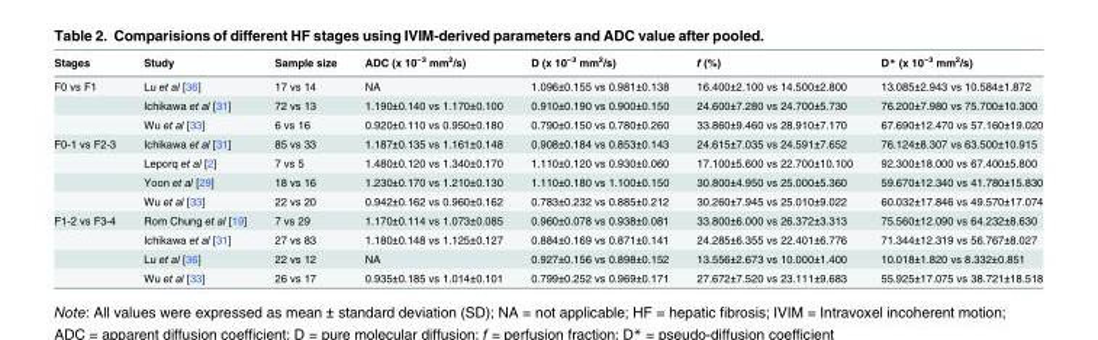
<table><thead><tr><td>Stages</td><td>Study</td><td>Sample size</td><td>ADC (x 10<sup>−3</sup> mm<sup>2</sup>/s)</td><td>D (x 10<sup>−3</sup> mm<sup>2</sup>/s)</td><td>f (%)</td><td>D* (x 10<sup>−3</sup> mm<sup>2</sup>/s)</td></tr></thead><tbody><tr><td rowspan="3">F0 vs F1</td><td>Lu et al [36]</td><td>17 vs 14</td><td>NA</td><td>1.096±0.155 vs 0.981±0.138</td><td>16.400±2.100 vs 14.500±2.800</td><td>13.085±2.943 vs 10.584±1.872</td></tr><tr><td>Ichikawa et al [31]</td><td>72 vs 13</td><td>1.190±0.140 vs 1.170±0.100</td><td>0.910±0.190 vs 0.900±0.150</td><td>24.600±7.280 vs 24.700±5.730</td><td>76.200±7.980 vs 75.700±10.300</td></tr><tr><td>Wu et al [33]</td><td>6 vs 16</td><td>0.920±0.110 vs 0.950±0.180</td><td>0.790±0.150 vs 0.780±0.260</td><td>33.860±9.460 vs 28.910±7.170</td><td>67.690±12.470 vs 57.160±19.020</td></tr><tr><td rowspan="4">F0-1 vs F2-3</td><td>Ichikawa et al [31]</td><td>85 vs 33</td><td>1.187±0.135 vs 1.161±0.148</td><td>0.908±0.184 vs 0.853±0.143</td><td>24.615±7.035 vs 24.591±7.652</td><td>76.124±8.307 vs 63.500±10.915</td></tr><tr><td>Leporq et al [2]</td><td>7 vs 5</td><td>1.480±0.120 vs 1.340±0.170</td><td>1.110±0.120 vs 0.930±0.060</td><td>17.100±5.600 vs 22.700±10.100</td><td>92.300±18.000 vs 67.400±5.800</td></tr><tr><td>Yoon et al [29]</td><td>18 vs 16</td><td>1.230±0.170 vs 1.210±0.130</td><td>1.110±0.180 vs 1.100±0.150</td><td>30.800±4.950 vs 25.000±5.360</td><td>59.670±12.340 vs 41.780±15.830</td></tr><tr><td>Wu et al [33]</td><td>22 vs 20</td><td>0.942±0.162 vs 0.960±0.162</td><td>0.783±0.232 vs 0.885±0.212</td><td>30.260±7.945 vs 25.010±9.022</td><td>60.032±17.846 vs 49.570±17.074</td></tr><tr><td rowspan="4">F1-2 vs F3-4</td><td>Rom Chung et al [19]</td><td>7 vs 29</td><td>1.170±0.114 vs 1.073±0.085</td><td>0.960±0.078 vs 0.938±0.081</td><td>33.800±6.000 vs 26.372±3.313</td><td>75.560±12.090 vs 64.232±8.630</td></tr><tr><td>Ichikawa et al [31]</td><td>27 vs 83</td><td>1.180±0.148 vs 1.125±0.127</td><td>0.884±0.169 vs 0.871±0.141</td><td>24.285±6.355 vs 22.401±6.776</td><td>71.344±12.319 vs 56.767±8.027</td></tr><tr><td>Lu et al [36]</td><td>22 vs 12</td><td>NA</td><td>0.927±0.156 vs 0.898±0.152</td><td>13.556±2.673 vs 10.000±1.400</td><td>10.018±1.820 vs 8.332±0.851</td></tr><tr><td>Wu et al [33]</td><td>26 vs 17</td><td>0.935±0.185 vs 1.014±0.101</td><td>0.799±0.252 vs 0.969±0.171</td><td>27.672±7.520 vs 23.111±9.683</td><td>55.925±17.075 vs 38.721±18.518</td></tr></tbody></table>